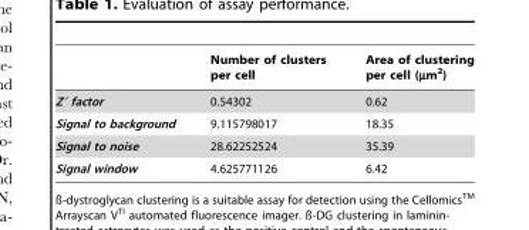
<table><thead><tr><td></td><td>Number of clusters per cell</td><td>Area of clustering per cell (µm<sup>2</sup>)</td></tr></thead><tbody><tr><td>Z′ factor</td><td>0.54302</td><td>0.62</td></tr><tr><td>Signal to background</td><td>9.115798017</td><td>18.35</td></tr><tr><td>Signal to noise</td><td>28.62252524</td><td>35.39</td></tr><tr><td>Signal window</td><td>4.625771126</td><td>6.42</td></tr></tbody></table>